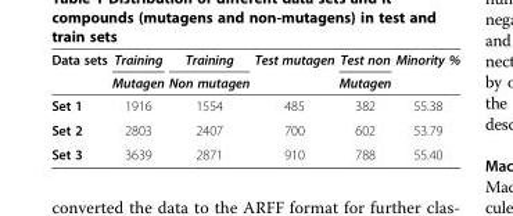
<table><thead><tr><td rowspan="2">Data sets</td><td rowspan="2">Training Mutagen</td><td rowspan="2">Training Non mutagen</td><td rowspan="2">Test mutagen</td><td rowspan="2">Test non Mutagen</td><td rowspan="2">Minority %</td></tr><tr></tr></thead><tbody><tr><td>Set 1</td><td>1916</td><td>1554</td><td>485</td><td>382</td><td>55.38</td></tr><tr><td>Set 2</td><td>2803</td><td>2407</td><td>700</td><td>602</td><td>53.79</td></tr><tr><td>Set 3</td><td>3639</td><td>2871</td><td>910</td><td>788</td><td>55.40</td></tr></tbody></table>